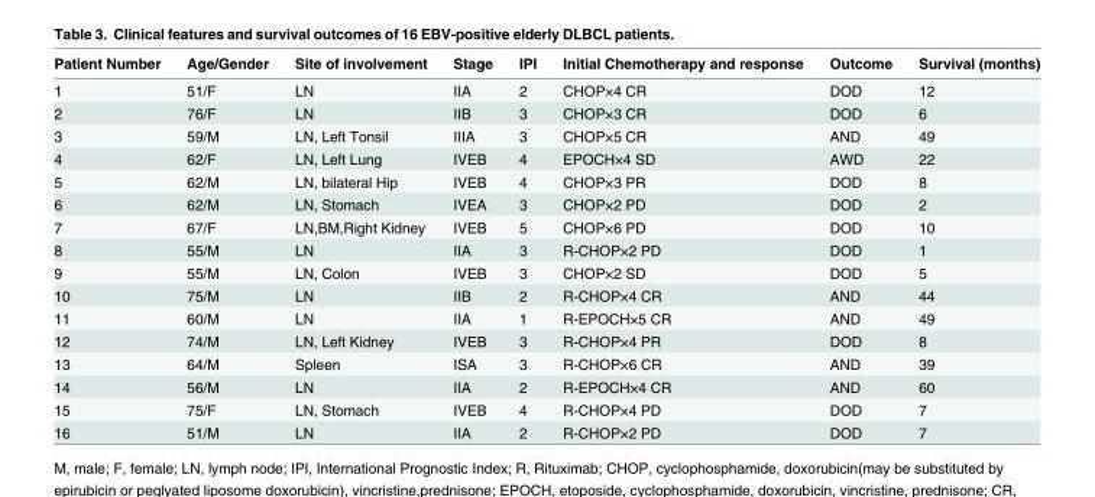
<table><thead><tr><td>Patient Number</td><td>Age/Gender</td><td>Site of involvement</td><td>Stage</td><td>IPI</td><td>Initial Chemotherapy and response</td><td>Outcome</td><td>Survival (months)</td></tr></thead><tbody><tr><td>1</td><td>51/F</td><td>LN</td><td>IIA</td><td>2</td><td>CHOP×4 CR</td><td>DOD</td><td>12</td></tr><tr><td>2</td><td>76/F</td><td>LN</td><td>IIB</td><td>3</td><td>CHOP×3 CR</td><td>DOD</td><td>6</td></tr><tr><td>3</td><td>59/M</td><td>LN, Left Tonsil</td><td>IIIA</td><td>3</td><td>CHOP×5 CR</td><td>AND</td><td>49</td></tr><tr><td>4</td><td>62/F</td><td>LN, Left Lung</td><td>IVEB</td><td>4</td><td>EPOCH×4 SD</td><td>AWD</td><td>22</td></tr><tr><td>5</td><td>62/M</td><td>LN, bilateral Hip</td><td>IVEB</td><td>4</td><td>CHOP×3 PR</td><td>DOD</td><td>8</td></tr><tr><td>6</td><td>62/M</td><td>LN, Stomach</td><td>IVEA</td><td>3</td><td>CHOP×2 PD</td><td>DOD</td><td>2</td></tr><tr><td>7</td><td>67/F</td><td>LN,BM,Right Kidney</td><td>IVEB</td><td>5</td><td>CHOP×6 PD</td><td>DOD</td><td>10</td></tr><tr><td>8</td><td>55/M</td><td>LN</td><td>IIA</td><td>3</td><td>R-CHOP×2 PD</td><td>DOD</td><td>1</td></tr><tr><td>9</td><td>55/M</td><td>LN, Colon</td><td>IVEB</td><td>3</td><td>CHOP×2 SD</td><td>DOD</td><td>5</td></tr><tr><td>10</td><td>75/M</td><td>LN</td><td>IIB</td><td>2</td><td>R-CHOP×4 CR</td><td>AND</td><td>44</td></tr><tr><td>11</td><td>60/M</td><td>LN</td><td>IIA</td><td>1</td><td>R-EPOCH×5 CR</td><td>AND</td><td>49</td></tr><tr><td>12</td><td>74/M</td><td>LN, Left Kidney</td><td>IVEB</td><td>3</td><td>R-CHOP×4 PR</td><td>DOD</td><td>8</td></tr><tr><td>13</td><td>64/M</td><td>Spleen</td><td>ISA</td><td>3</td><td>R-CHOP×6 CR</td><td>AND</td><td>39</td></tr><tr><td>14</td><td>56/M</td><td>LN</td><td>IIA</td><td>2</td><td>R-EPOCH×4 CR</td><td>AND</td><td>60</td></tr><tr><td>15</td><td>75/F</td><td>LN, Stomach</td><td>IVEB</td><td>4</td><td>R-CHOP×4 PD</td><td>DOD</td><td>7</td></tr><tr><td>16</td><td>51/M</td><td>LN</td><td>IIA</td><td>2</td><td>R-CHOP×2 PD</td><td>DOD</td><td>7</td></tr></tbody></table>